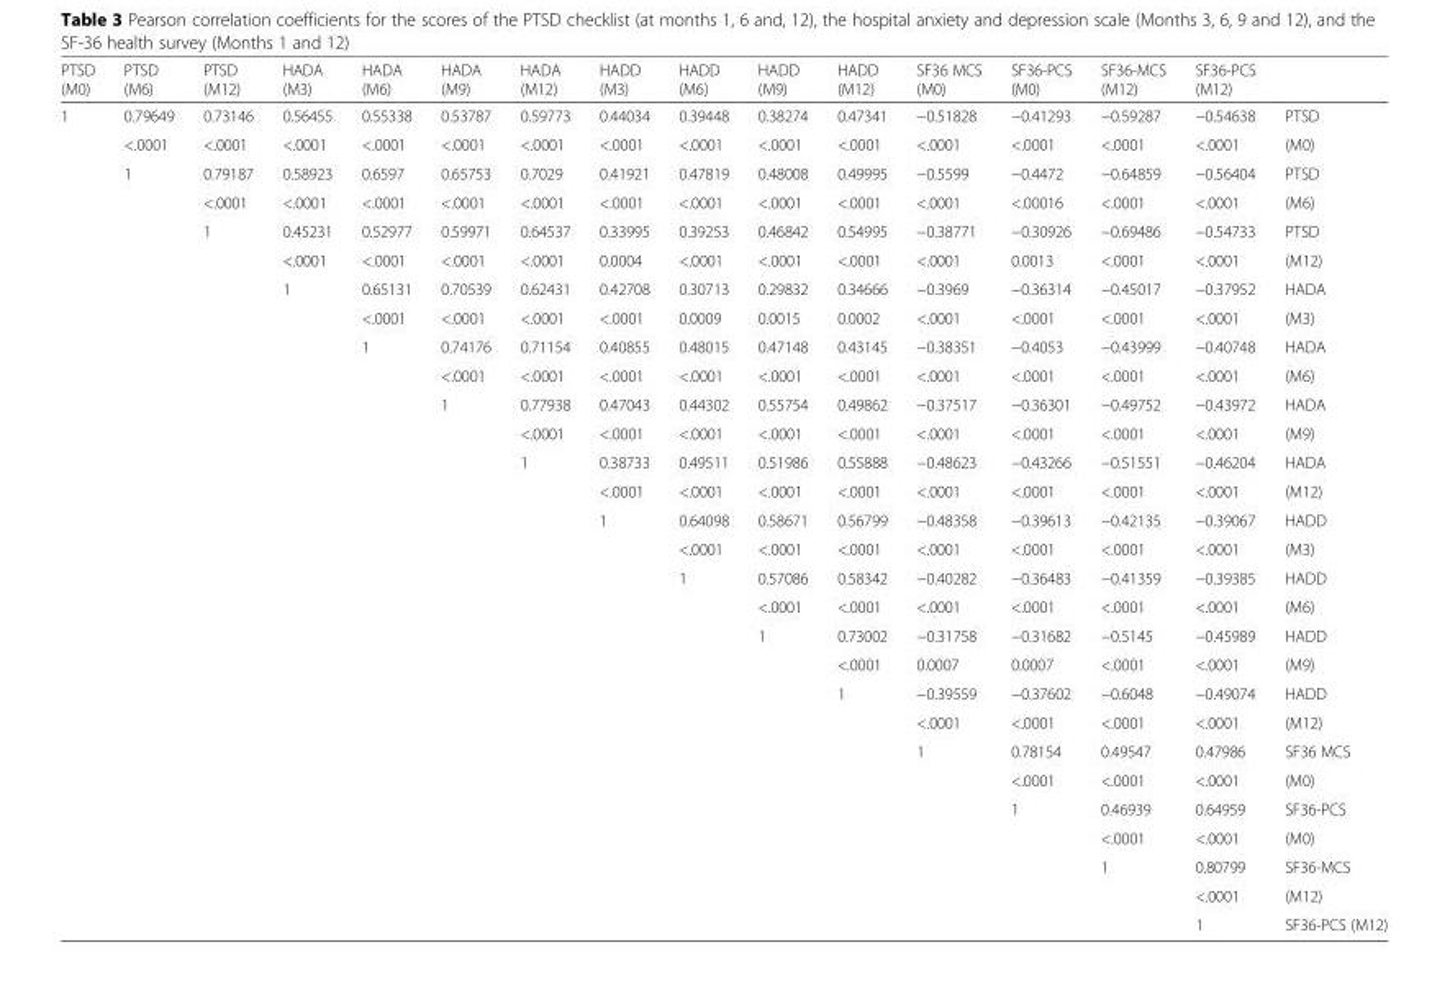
<table><thead><tr><td>PTSD (M0)</td><td>PTSD (M6)</td><td>PTSD (M12)</td><td>HADA (M3)</td><td>HADA (M6)</td><td>HADA (M9)</td><td>HADA (M12)</td><td>HADD (M3)</td><td>HADD (M6)</td><td>HADD (M9)</td><td>HADD (M12)</td><td>SF36 MCS (M0)</td><td>SF36-PCS (M0)</td><td>SF36-MCS (M12)</td><td>SF36-PCS (M12)</td><td></td></tr></thead><tbody><tr><td rowspan="29">1</td><td>0.79649</td><td>0.73146</td><td>0.56455</td><td>0.55338</td><td>0.53787</td><td>0.59773</td><td>0.44034</td><td>0.39448</td><td>0.38274</td><td>0.47341</td><td>−0.51828</td><td>−0.41293</td><td>−0.59287</td><td>−0.54638</td><td>PTSD</td></tr><tr><td>&lt;.0001</td><td>&lt;.0001</td><td>&lt;.0001</td><td>&lt;.0001</td><td>&lt;.0001</td><td>&lt;.0001</td><td>&lt;.0001</td><td>&lt;.0001</td><td>&lt;.0001</td><td>&lt;.0001</td><td>&lt;.0001</td><td>&lt;.0001</td><td>&lt;.0001</td><td>&lt;.0001</td><td>(M0)</td></tr><tr><td rowspan="2">1</td><td>0.79187</td><td>0.58923</td><td>0.6597</td><td>0.65753</td><td>0.7029</td><td>0.41921</td><td>0.47819</td><td>0.48008</td><td>0.49995</td><td>−0.5599</td><td>−0.4472</td><td>−0.64859</td><td>−0.56404</td><td>PTSD</td></tr><tr><td>&lt;.0001</td><td>&lt;.0001</td><td>&lt;.0001</td><td>&lt;.0001</td><td>&lt;.0001</td><td>&lt;.0001</td><td>&lt;.0001</td><td>&lt;.0001</td><td>&lt;.0001</td><td>&lt;.0001</td><td>&lt;.00016</td><td>&lt;.0001</td><td>&lt;.0001</td><td>(M6)</td></tr><tr><td rowspan="2"></td><td rowspan="2">1</td><td>0.45231</td><td>0.52977</td><td>0.59971</td><td>0.64537</td><td>0.33995</td><td>0.39253</td><td>0.46842</td><td>0.54995</td><td>−0.38771</td><td>−0.30926</td><td>−0.69486</td><td>−0.54733</td><td>PTSD</td></tr><tr><td>&lt;.0001</td><td>&lt;.0001</td><td>&lt;.0001</td><td>&lt;.0001</td><td>0.0004</td><td>&lt;.0001</td><td>&lt;.0001</td><td>&lt;.0001</td><td>&lt;.0001</td><td>0.0013</td><td>&lt;.0001</td><td>&lt;.0001</td><td>(M12)</td></tr><tr><td rowspan="2"></td><td rowspan="2"></td><td rowspan="2">1</td><td>0.65131</td><td>0.70539</td><td>0.62431</td><td>0.42708</td><td>0.30713</td><td>0.29832</td><td>0.34666</td><td>−0.3969</td><td>−0.36314</td><td>−0.45017</td><td>−0.37952</td><td>HADA</td></tr><tr><td>&lt;.0001</td><td>&lt;.0001</td><td>&lt;.0001</td><td>&lt;.0001</td><td>0.0009</td><td>0.0015</td><td>0.0002</td><td>&lt;.0001</td><td>&lt;.0001</td><td>&lt;.0001</td><td>&lt;.0001</td><td>(M3)</td></tr><tr><td rowspan="2"></td><td rowspan="2"></td><td rowspan="2"></td><td rowspan="2">1</td><td>0.74176</td><td>0.71154</td><td>0.40855</td><td>0.48015</td><td>0.47148</td><td>0.43145</td><td>−0.38351</td><td>−0.4053</td><td>−0.43999</td><td>−0.40748</td><td>HADA</td></tr><tr><td>&lt;.0001</td><td>&lt;.0001</td><td>&lt;.0001</td><td>&lt;.0001</td><td>&lt;.0001</td><td>&lt;.0001</td><td>&lt;.0001</td><td>&lt;.0001</td><td>&lt;.0001</td><td>&lt;.0001</td><td>(M6)</td></tr><tr><td rowspan="2"></td><td rowspan="2"></td><td rowspan="2"></td><td rowspan="2"></td><td rowspan="2">1</td><td>0.77938</td><td>0.47043</td><td>0.44302</td><td>0.55754</td><td>0.49862</td><td>−0.37517</td><td>−0.36301</td><td>−0.49752</td><td>−0.43972</td><td>HADA</td></tr><tr><td>&lt;.0001</td><td>&lt;.0001</td><td>&lt;.0001</td><td>&lt;.0001</td><td>&lt;.0001</td><td>&lt;.0001</td><td>&lt;.0001</td><td>&lt;.0001</td><td>&lt;.0001</td><td>(M9)</td></tr><tr><td rowspan="2"></td><td rowspan="2"></td><td rowspan="2"></td><td rowspan="2"></td><td rowspan="2"></td><td rowspan="2">1</td><td>0.38733</td><td>0.49511</td><td>0.51986</td><td>0.55888</td><td>−0.48623</td><td>−0.43266</td><td>−0.51551</td><td>−0.46204</td><td>HADA</td></tr><tr><td>&lt;.0001</td><td>&lt;.0001</td><td>&lt;.0001</td><td>&lt;.0001</td><td>&lt;.0001</td><td>&lt;.0001</td><td>&lt;.0001</td><td>&lt;.0001</td><td>(M12)</td></tr><tr><td rowspan="2"></td><td rowspan="2"></td><td rowspan="2"></td><td rowspan="2"></td><td rowspan="2"></td><td rowspan="2"></td><td rowspan="2">1</td><td>0.64098</td><td>0.58671</td><td>0.56799</td><td>−0.48358</td><td>−0.39613</td><td>−0.42135</td><td>−0.39067</td><td>HADD</td></tr><tr><td>&lt;.0001</td><td>&lt;.0001</td><td>&lt;.0001</td><td>&lt;.0001</td><td>&lt;.0001</td><td>&lt;.0001</td><td>&lt;.0001</td><td>(M3)</td></tr><tr><td rowspan="2"></td><td rowspan="2"></td><td rowspan="2"></td><td rowspan="2"></td><td rowspan="2"></td><td rowspan="2"></td><td rowspan="2"></td><td rowspan="2">1</td><td>0.57086</td><td>0.58342</td><td>−0.40282</td><td>−0.36483</td><td>−0.41359</td><td>−0.39385</td><td>HADD</td></tr><tr><td>&lt;.0001</td><td>&lt;.0001</td><td>&lt;.0001</td><td>&lt;.0001</td><td>&lt;.0001</td><td>&lt;.0001</td><td>(M6)</td></tr><tr><td rowspan="2"></td><td rowspan="2"></td><td rowspan="2"></td><td rowspan="2"></td><td rowspan="2"></td><td rowspan="2"></td><td rowspan="2"></td><td rowspan="2"></td><td rowspan="2">1</td><td>0.73002</td><td>−0.31758</td><td>−0.31682</td><td>−0.5145</td><td>−0.45989</td><td>HADD</td></tr><tr><td>&lt;.0001</td><td>0.0007</td><td>0.0007</td><td>&lt;.0001</td><td>&lt;.0001</td><td>(M9)</td></tr><tr><td rowspan="2"></td><td rowspan="2"></td><td rowspan="2"></td><td rowspan="2"></td><td rowspan="2"></td><td rowspan="2"></td><td rowspan="2"></td><td rowspan="2"></td><td rowspan="2"></td><td rowspan="2">1</td><td>−0.39559</td><td>−0.37602</td><td>−0.6048</td><td>−0.49074</td><td>HADD</td></tr><tr><td>&lt;.0001</td><td>&lt;.0001</td><td>&lt;.0001</td><td>&lt;.0001</td><td>(M12)</td></tr><tr><td rowspan="2"></td><td rowspan="2"></td><td rowspan="2"></td><td rowspan="2"></td><td rowspan="2"></td><td rowspan="2"></td><td rowspan="2"></td><td rowspan="2"></td><td rowspan="2"></td><td rowspan="2"></td><td rowspan="2">1</td><td>0.78154</td><td>0.49547</td><td>0.47986</td><td>SF36 MCS</td></tr><tr><td>&lt;.0001</td><td>&lt;.0001</td><td>&lt;.0001</td><td>(M0)</td></tr><tr><td rowspan="2"></td><td rowspan="2"></td><td rowspan="2"></td><td rowspan="2"></td><td rowspan="2"></td><td rowspan="2"></td><td rowspan="2"></td><td rowspan="2"></td><td rowspan="2"></td><td rowspan="2"></td><td rowspan="2"></td><td rowspan="2">1</td><td>0.46939</td><td>0.64959</td><td>SF36-PCS</td></tr><tr><td>&lt;.0001</td><td>&lt;.0001</td><td>(M0)</td></tr><tr><td rowspan="2"></td><td rowspan="2"></td><td rowspan="2"></td><td rowspan="2"></td><td rowspan="2"></td><td rowspan="2"></td><td rowspan="2"></td><td rowspan="2"></td><td rowspan="2"></td><td rowspan="2"></td><td rowspan="2"></td><td rowspan="2"></td><td rowspan="2">1</td><td>0.80799</td><td>SF36-MCS</td></tr><tr><td>&lt;.0001</td><td>(M12)</td></tr><tr><td></td><td></td><td></td><td></td><td></td><td></td><td></td><td></td><td></td><td></td><td></td><td></td><td></td><td>1</td><td>SF36-PCS (M12)</td></tr></tbody></table>